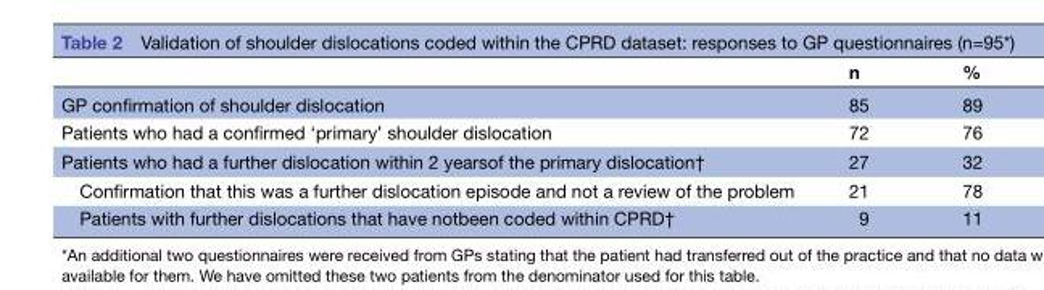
<table><thead><tr><td></td><td>n</td><td>%</td></tr></thead><tbody><tr><td>GP confirmation of shoulder dislocation</td><td>85</td><td>89</td></tr><tr><td>Patients who had a confirmed ‘primary’ shoulder dislocation</td><td>72</td><td>76</td></tr><tr><td>Patients who had a further dislocation within 2 yearsof the primary dislocation†</td><td>27</td><td>32</td></tr><tr><td>Confirmation that this was a further dislocation episode and not a review of the problem</td><td>21</td><td>78</td></tr><tr><td>Patients with further dislocations that have notbeen coded within CPRD†</td><td>9</td><td>11</td></tr></tbody></table>